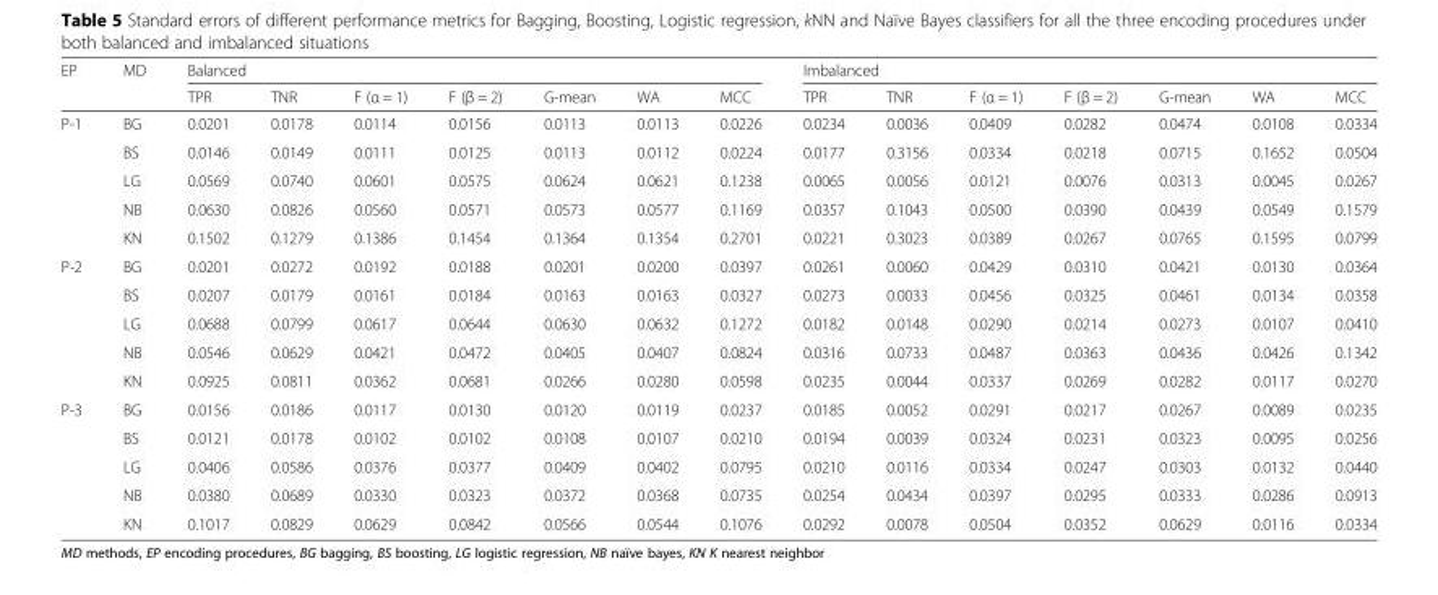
<table><thead><tr><td rowspan="2">EP</td><td rowspan="2">MD</td><td colspan="7">Balanced</td><td colspan="7">Imbalanced</td></tr><tr><td>TPR</td><td>TNR</td><td>F (α = 1)</td><td>F (β = 2)</td><td>G-mean</td><td>WA</td><td>MCC</td><td>TPR</td><td>TNR</td><td>F (α = 1)</td><td>F (β = 2)</td><td>G-mean</td><td>WA</td><td>MCC</td></tr></thead><tbody><tr><td rowspan="5">P-1</td><td>BG</td><td>0.0201</td><td>0.0178</td><td>0.0114</td><td>0.0156</td><td>0.0113</td><td>0.0113</td><td>0.0226</td><td>0.0234</td><td>0.0036</td><td>0.0409</td><td>0.0282</td><td>0.0474</td><td>0.0108</td><td>0.0334</td></tr><tr><td>BS</td><td>0.0146</td><td>0.0149</td><td>0.0111</td><td>0.0125</td><td>0.0113</td><td>0.0112</td><td>0.0224</td><td>0.0177</td><td>0.3156</td><td>0.0334</td><td>0.0218</td><td>0.0715</td><td>0.1652</td><td>0.0504</td></tr><tr><td>LG</td><td>0.0569</td><td>0.0740</td><td>0.0601</td><td>0.0575</td><td>0.0624</td><td>0.0621</td><td>0.1238</td><td>0.0065</td><td>0.0056</td><td>0.0121</td><td>0.0076</td><td>0.0313</td><td>0.0045</td><td>0.0267</td></tr><tr><td>NB</td><td>0.0630</td><td>0.0826</td><td>0.0560</td><td>0.0571</td><td>0.0573</td><td>0.0577</td><td>0.1169</td><td>0.0357</td><td>0.1043</td><td>0.0500</td><td>0.0390</td><td>0.0439</td><td>0.0549</td><td>0.1579</td></tr><tr><td>KN</td><td>0.1502</td><td>0.1279</td><td>0.1386</td><td>0.1454</td><td>0.1364</td><td>0.1354</td><td>0.2701</td><td>0.0221</td><td>0.3023</td><td>0.0389</td><td>0.0267</td><td>0.0765</td><td>0.1595</td><td>0.0799</td></tr><tr><td rowspan="5">P-2</td><td>BG</td><td>0.0201</td><td>0.0272</td><td>0.0192</td><td>0.0188</td><td>0.0201</td><td>0.0200</td><td>0.0397</td><td>0.0261</td><td>0.0060</td><td>0.0429</td><td>0.0310</td><td>0.0421</td><td>0.0130</td><td>0.0364</td></tr><tr><td>BS</td><td>0.0207</td><td>0.0179</td><td>0.0161</td><td>0.0184</td><td>0.0163</td><td>0.0163</td><td>0.0327</td><td>0.0273</td><td>0.0033</td><td>0.0456</td><td>0.0325</td><td>0.0461</td><td>0.0134</td><td>0.0358</td></tr><tr><td>LG</td><td>0.0688</td><td>0.0799</td><td>0.0617</td><td>0.0644</td><td>0.0630</td><td>0.0632</td><td>0.1272</td><td>0.0182</td><td>0.0148</td><td>0.0290</td><td>0.0214</td><td>0.0273</td><td>0.0107</td><td>0.0410</td></tr><tr><td>NB</td><td>0.0546</td><td>0.0629</td><td>0.0421</td><td>0.0472</td><td>0.0405</td><td>0.0407</td><td>0.0824</td><td>0.0316</td><td>0.0733</td><td>0.0487</td><td>0.0363</td><td>0.0436</td><td>0.0426</td><td>0.1342</td></tr><tr><td>KN</td><td>0.0925</td><td>0.0811</td><td>0.0362</td><td>0.0681</td><td>0.0266</td><td>0.0280</td><td>0.0598</td><td>0.0235</td><td>0.0044</td><td>0.0337</td><td>0.0269</td><td>0.0282</td><td>0.0117</td><td>0.0270</td></tr><tr><td rowspan="5">P-3</td><td>BG</td><td>0.0156</td><td>0.0186</td><td>0.0117</td><td>0.0130</td><td>0.0120</td><td>0.0119</td><td>0.0237</td><td>0.0185</td><td>0.0052</td><td>0.0291</td><td>0.0217</td><td>0.0267</td><td>0.0089</td><td>0.0235</td></tr><tr><td>BS</td><td>0.0121</td><td>0.0178</td><td>0.0102</td><td>0.0102</td><td>0.0108</td><td>0.0107</td><td>0.0210</td><td>0.0194</td><td>0.0039</td><td>0.0324</td><td>0.0231</td><td>0.0323</td><td>0.0095</td><td>0.0256</td></tr><tr><td>LG</td><td>0.0406</td><td>0.0586</td><td>0.0376</td><td>0.0377</td><td>0.0409</td><td>0.0402</td><td>0.0795</td><td>0.0210</td><td>0.0116</td><td>0.0334</td><td>0.0247</td><td>0.0303</td><td>0.0132</td><td>0.0440</td></tr><tr><td>NB</td><td>0.0380</td><td>0.0689</td><td>0.0330</td><td>0.0323</td><td>0.0372</td><td>0.0368</td><td>0.0735</td><td>0.0254</td><td>0.0434</td><td>0.0397</td><td>0.0295</td><td>0.0333</td><td>0.0286</td><td>0.0913</td></tr><tr><td>KN</td><td>0.1017</td><td>0.0829</td><td>0.0629</td><td>0.0842</td><td>0.0566</td><td>0.0544</td><td>0.1076</td><td>0.0292</td><td>0.0078</td><td>0.0504</td><td>0.0352</td><td>0.0629</td><td>0.0116</td><td>0.0334</td></tr></tbody></table>